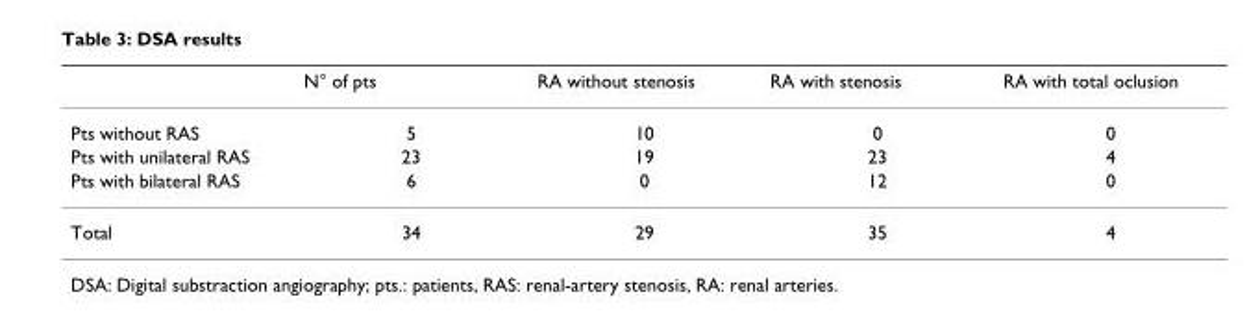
<table><thead><tr><td></td><td>N° of pts</td><td>RA without stenosis</td><td>RA with stenosis</td><td>RA with total oclusion</td></tr></thead><tbody><tr><td>Pts without RAS</td><td>5</td><td>10</td><td>0</td><td>0</td></tr><tr><td>Pts with unilateral RAS</td><td>23</td><td>19</td><td>23</td><td>4</td></tr><tr><td>Pts with bilateral RAS</td><td>6</td><td>0</td><td>12</td><td>0</td></tr><tr><td>Total</td><td>34</td><td>29</td><td>35</td><td>4</td></tr></tbody></table>